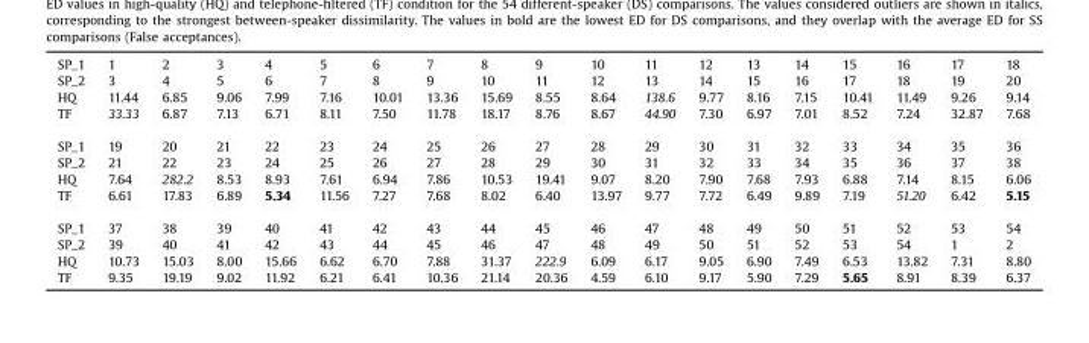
<table><tbody><tr><td>SP_1</td><td>1</td><td>2</td><td>3</td><td>4</td><td>5</td><td>6</td><td>7</td><td>8</td><td>9</td><td>10</td><td>11</td><td>12</td><td>13</td><td>14</td><td>15</td><td>16</td><td>17</td><td>18</td></tr><tr><td>SP_2</td><td>3</td><td>4</td><td>5</td><td>6</td><td>7</td><td>8</td><td>9</td><td>10</td><td>11</td><td>12</td><td>13</td><td>14</td><td>15</td><td>16</td><td>17</td><td>18</td><td>19</td><td>20</td></tr><tr><td>HQ</td><td>11.44</td><td>6.85</td><td>9.06</td><td>7.99</td><td>7.16</td><td>10.01</td><td>13.36</td><td>15.69</td><td>8.55</td><td>8.64</td><td>138.6</td><td>9.77</td><td>8.16</td><td>7.15</td><td>10.41</td><td>11.49</td><td>9.26</td><td>9.14</td></tr><tr><td>TF</td><td>33.33</td><td>6.87</td><td>7.13</td><td>6.71</td><td>8.11</td><td>7.50</td><td>11.78</td><td>18.17</td><td>8.76</td><td>8.67</td><td>44.90</td><td>7.30</td><td>6.97</td><td>7.01</td><td>8.52</td><td>7.24</td><td>32.87</td><td>7.68</td></tr><tr><td>SP_1</td><td>19</td><td>20</td><td>21</td><td>22</td><td>23</td><td>24</td><td>25</td><td>26</td><td>27</td><td>28</td><td>29</td><td>30</td><td>31</td><td>32</td><td>33</td><td>34</td><td>35</td><td>36</td></tr><tr><td>SP_2</td><td>21</td><td>22</td><td>23</td><td>24</td><td>25</td><td>26</td><td>27</td><td>28</td><td>29</td><td>30</td><td>31</td><td>32</td><td>33</td><td>34</td><td>35</td><td>36</td><td>37</td><td>38</td></tr><tr><td>HQ</td><td>7.64</td><td>282.2</td><td>8.53</td><td>8.93</td><td>7.61</td><td>6.94</td><td>7.86</td><td>10.53</td><td>19.41</td><td>9.07</td><td>8.20</td><td>7.90</td><td>7.68</td><td>7.93</td><td>6.88</td><td>7.14</td><td>8.15</td><td>6.06</td></tr><tr><td>TF</td><td>6.61</td><td>17.83</td><td>6.89</td><td>5.34</td><td>11.56</td><td>7.27</td><td>7.68</td><td>8.02</td><td>6.40</td><td>13.97</td><td>9.77</td><td>7.72</td><td>6.49</td><td>9.89</td><td>7.19</td><td>51.20</td><td>6.42</td><td>5.15</td></tr><tr><td>SP_1</td><td>37</td><td>38</td><td>39</td><td>40</td><td>41</td><td>42</td><td>43</td><td>44</td><td>45</td><td>46</td><td>47</td><td>48</td><td>49</td><td>50</td><td>51</td><td>52</td><td>53</td><td>54</td></tr><tr><td>SP_2</td><td>39</td><td>40</td><td>41</td><td>42</td><td>43</td><td>44</td><td>45</td><td>46</td><td>47</td><td>48</td><td>49</td><td>50</td><td>51</td><td>52</td><td>53</td><td>54</td><td>1</td><td>2</td></tr><tr><td>HQ</td><td>10.73</td><td>15.03</td><td>8.00</td><td>15.66</td><td>6.62</td><td>6.70</td><td>7.88</td><td>31.37</td><td>222.9</td><td>6.09</td><td>6.17</td><td>9.05</td><td>6.90</td><td>7.49</td><td>6.53</td><td>13.82</td><td>7.31</td><td>8.80</td></tr><tr><td>TF</td><td>9.35</td><td>19.19</td><td>9.02</td><td>11.92</td><td>6.21</td><td>6.41</td><td>10.36</td><td>21.14</td><td>20.36</td><td>4.59</td><td>6.10</td><td>9.17</td><td>5.90</td><td>7.29</td><td>5.65</td><td>8.91</td><td>8.39</td><td>6.37</td></tr></tbody></table>